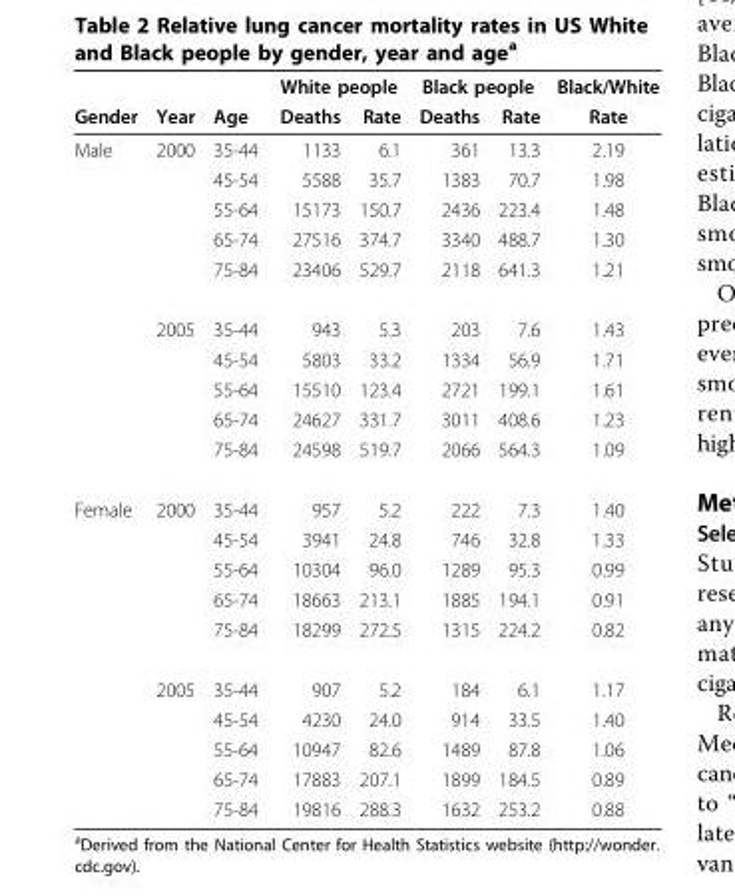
<table><thead><tr><td rowspan="2">Gender</td><td rowspan="2">Year</td><td rowspan="2">Age</td><td colspan="2">White people</td><td colspan="2">Black people</td><td rowspan="2">Black/White Rate</td></tr><tr><td>Deaths</td><td>Rate</td><td>Deaths</td><td>Rate</td></tr></thead><tbody><tr><td rowspan="10">Male</td><td>2000</td><td>35-44</td><td>1133</td><td>6.1</td><td>361</td><td>13.3</td><td>2.19</td></tr><tr><td></td><td>45-54</td><td>5588</td><td>35.7</td><td>1383</td><td>70.7</td><td>1.98</td></tr><tr><td></td><td>55-64</td><td>15173</td><td>150.7</td><td>2436</td><td>223.4</td><td>1.48</td></tr><tr><td></td><td>65-74</td><td>27516</td><td>374.7</td><td>3340</td><td>488.7</td><td>1.30</td></tr><tr><td></td><td>75-84</td><td>23406</td><td>529.7</td><td>2118</td><td>641.3</td><td>1.21</td></tr><tr><td>2005</td><td>35-44</td><td>943</td><td>5.3</td><td>203</td><td>7.6</td><td>1.43</td></tr><tr><td></td><td>45-54</td><td>5803</td><td>33.2</td><td>1334</td><td>56.9</td><td>1.71</td></tr><tr><td></td><td>55-64</td><td>15510</td><td>123.4</td><td>2721</td><td>199.1</td><td>1.61</td></tr><tr><td></td><td>65-74</td><td>24627</td><td>331.7</td><td>3011</td><td>408.6</td><td>1.23</td></tr><tr><td></td><td>75-84</td><td>24598</td><td>519.7</td><td>2066</td><td>564.3</td><td>1.09</td></tr><tr><td rowspan="10">Female</td><td>2000</td><td>35-44</td><td>957</td><td>5.2</td><td>222</td><td>7.3</td><td>1.40</td></tr><tr><td></td><td>45-54</td><td>3941</td><td>24.8</td><td>746</td><td>32.8</td><td>1.33</td></tr><tr><td></td><td>55-64</td><td>10304</td><td>96.0</td><td>1289</td><td>95.3</td><td>0.99</td></tr><tr><td></td><td>65-74</td><td>18663</td><td>213.1</td><td>1885</td><td>194.1</td><td>0.91</td></tr><tr><td></td><td>75-84</td><td>18299</td><td>272.5</td><td>1315</td><td>224.2</td><td>0.82</td></tr><tr><td>2005</td><td>35-44</td><td>907</td><td>5.2</td><td>184</td><td>6.1</td><td>1.17</td></tr><tr><td></td><td>45-54</td><td>4230</td><td>24.0</td><td>914</td><td>33.5</td><td>1.40</td></tr><tr><td></td><td>55-64</td><td>10947</td><td>82.6</td><td>1489</td><td>87.8</td><td>1.06</td></tr><tr><td></td><td>65-74</td><td>17883</td><td>207.1</td><td>1899</td><td>184.5</td><td>0.89</td></tr><tr><td></td><td>75-84</td><td>19816</td><td>288.3</td><td>1632</td><td>253.2</td><td>0.88</td></tr></tbody></table>